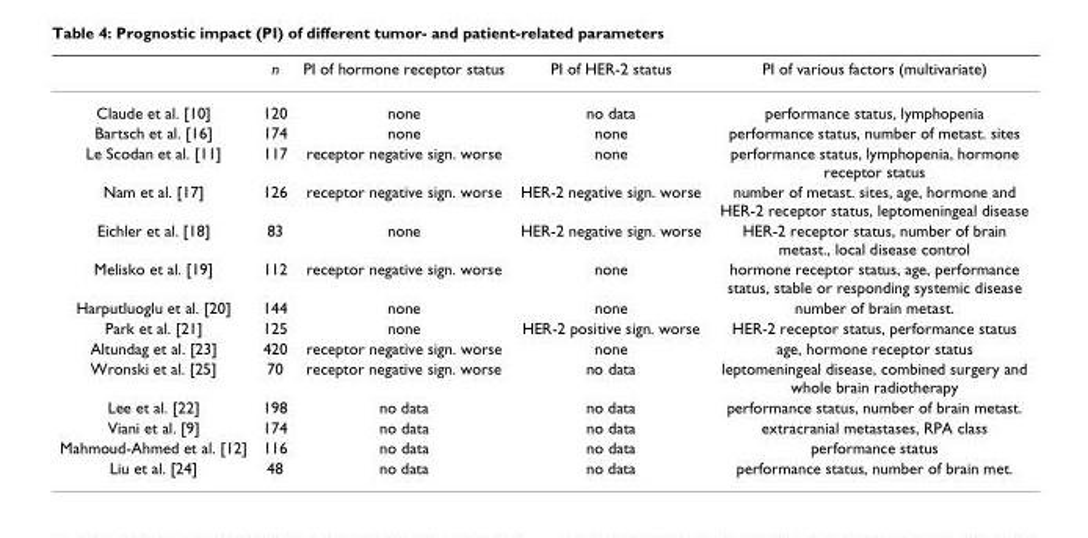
<table><thead><tr><td></td><td>n</td><td>PI of hormone receptor status</td><td>PI of HER-2 status</td><td>PI of various factors (multivariate)</td></tr></thead><tbody><tr><td>Claude et al. [10]</td><td>120</td><td>none</td><td>no data</td><td>performance status, lymphopenia</td></tr><tr><td>Bartsch et al. [16]</td><td>174</td><td>none</td><td>none</td><td>performance status, number of metast. sites</td></tr><tr><td>Le Scodan et al. [11]</td><td>117</td><td>receptor negative sign. worse</td><td>none</td><td>performance status, lymphopenia, hormone receptor status</td></tr><tr><td>Nam et al. [17]</td><td>126</td><td>receptor negative sign. worse</td><td>HER-2 negative sign. worse</td><td>number of metast. sites, age, hormone and HER-2 receptor status, leptomeningeal disease</td></tr><tr><td>Eichler et al. [18]</td><td>83</td><td>none</td><td>HER-2 negative sign. worse</td><td>HER-2 receptor status, number of brain metast., local disease control</td></tr><tr><td>Melisko et al. [19]</td><td>112</td><td>receptor negative sign. worse</td><td>none</td><td>hormone receptor status, age, performance status, stable or responding systemic disease</td></tr><tr><td>Harputluoglu et al. [20]</td><td>144</td><td>none</td><td>none</td><td>number of brain metast.</td></tr><tr><td>Park et al. [21]</td><td>125</td><td>none</td><td>HER-2 positive sign. worse</td><td>HER-2 receptor status, performance status</td></tr><tr><td>Altundag et al. [23]</td><td>420</td><td>receptor negative sign. worse</td><td>none</td><td>age, hormone receptor status</td></tr><tr><td>Wronski et al. [25]</td><td>70</td><td>receptor negative sign. worse</td><td>no data</td><td>leptomeningeal disease, combined surgery and whole brain radiotherapy</td></tr><tr><td>Lee et al. [22]</td><td>198</td><td>no data</td><td>no data</td><td>performance status, number of brain metast.</td></tr><tr><td>Viani et al. [9]</td><td>174</td><td>no data</td><td>no data</td><td>extracranial metastases, RPA class</td></tr><tr><td>Mahmoud-Ahmed et al. [12]</td><td>116</td><td>no data</td><td>no data</td><td>performance status</td></tr><tr><td>Liu et al. [24]</td><td>48</td><td>no data</td><td>no data</td><td>performance status, number of brain met.</td></tr></tbody></table>